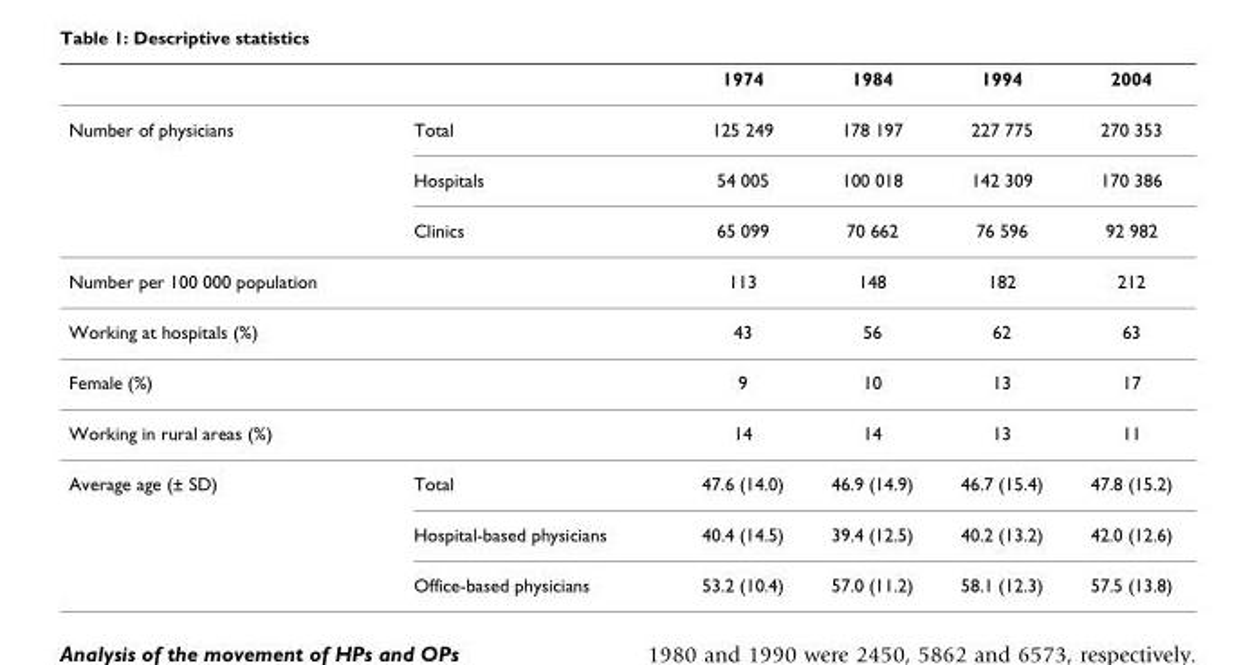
<table><thead><tr><td></td><td></td><td>1974</td><td>1984</td><td>1994</td><td>2004</td></tr></thead><tbody><tr><td rowspan="3">Number of physicians</td><td>Total</td><td>125 249</td><td>178 197</td><td>227 775</td><td>270 353</td></tr><tr><td>Hospitals</td><td>54 005</td><td>100 018</td><td>142 309</td><td>170 386</td></tr><tr><td>Clinics</td><td>65 099</td><td>70 662</td><td>76 596</td><td>92 982</td></tr><tr><td>Number per 100 000 population</td><td></td><td>113</td><td>148</td><td>182</td><td>212</td></tr><tr><td>Working at hospitals (%)</td><td></td><td>43</td><td>56</td><td>62</td><td>63</td></tr><tr><td>Female (%)</td><td></td><td>9</td><td>10</td><td>13</td><td>17</td></tr><tr><td>Working in rural areas (%)</td><td></td><td>14</td><td>14</td><td>13</td><td>11</td></tr><tr><td rowspan="3">Average age (± SD)</td><td>Total</td><td>47.6 (14.0)</td><td>46.9 (14.9)</td><td>46.7 (15.4)</td><td>47.8 (15.2)</td></tr><tr><td>Hospital-based physicians</td><td>40.4 (14.5)</td><td>39.4 (12.5)</td><td>40.2 (13.2)</td><td>42.0 (12.6)</td></tr><tr><td>Office-based physicians</td><td>53.2 (10.4)</td><td>57.0 (11.2)</td><td>58.1 (12.3)</td><td>57.5 (13.8)</td></tr></tbody></table>